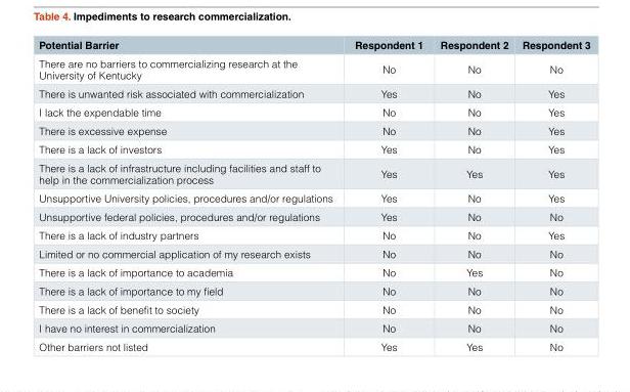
<table><thead><tr><td>Potential Barrier</td><td>Respondent 1</td><td>Respondent 2</td><td>Respondent 3</td></tr></thead><tbody><tr><td>There are no barriers to commercializing research at the University of Kentucky</td><td>No</td><td>No</td><td>No</td></tr><tr><td>There is unwanted risk associated with commercialization</td><td>Yes</td><td>No</td><td>Yes</td></tr><tr><td>I lack the expendable time</td><td>No</td><td>No</td><td>Yes</td></tr><tr><td>There is excessive expense</td><td>No</td><td>No</td><td>Yes</td></tr><tr><td>There is a lack of investors</td><td>Yes</td><td>No</td><td>Yes</td></tr><tr><td>There is a lack of infrastructure including facilities and staff to help in the commercialization process</td><td>Yes</td><td>Yes</td><td>Yes</td></tr><tr><td>Unsupportive University policies, procedures and/or regulations</td><td>Yes</td><td>No</td><td>Yes</td></tr><tr><td>Unsupportive federal policies, procedures and/or regulations</td><td>Yes</td><td>No</td><td>No</td></tr><tr><td>There is a lack of industry partners</td><td>No</td><td>No</td><td>Yes</td></tr><tr><td>Limited or no commercial application of my research exists</td><td>No</td><td>No</td><td>No</td></tr><tr><td>There is a lack of importance to academia</td><td>No</td><td>Yes</td><td>No</td></tr><tr><td>There is a lack of importance to my field</td><td>No</td><td>No</td><td>No</td></tr><tr><td>There is a lack of benefit to society</td><td>No</td><td>No</td><td>No</td></tr><tr><td>I have no interest in commercialization</td><td>No</td><td>No</td><td>No</td></tr><tr><td>Other barriers not listed</td><td>Yes</td><td>Yes</td><td>No</td></tr></tbody></table>